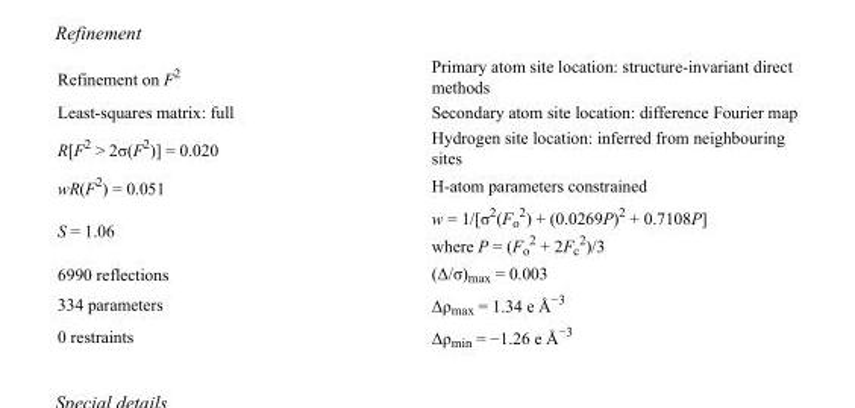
<table><tbody><tr><td>Refinement on F<sup>2</sup></td><td>Primary atom site location: structure-invariant direct methods</td></tr><tr><td>Least-squares matrix: full</td><td>Secondary atom site location: difference Fourier map</td></tr><tr><td>R[F<sup>2</sup> &gt; 2σ(F<sup>2</sup>)] = 0.020</td><td>Hydrogen site location: inferred from neighbouring sites</td></tr><tr><td>wR(F<sup>2</sup>) = 0.051</td><td>H-atom parameters constrained</td></tr><tr><td>S = 1.06</td><td>w = 1/[σ<sup>2</sup>(F<sub>o</sub> <sup>2</sup>) + (0.0269P)<sup>2</sup> + 0.7108P] where P = (F<sub>o</sub> <sup>2</sup> + 2F<sub>c</sub> <sup>2</sup>)/3</td></tr><tr><td>6990 reflections</td><td>(Δ/σ)<sub>max</sub> = 0.003</td></tr><tr><td>334 parameters</td><td>Δρ<sub>max</sub> = 1.34 e Å<sup>−3</sup></td></tr><tr><td>0 restraints</td><td>Δρ<sub>min</sub> = −1.26 e Å<sup>−3</sup></td></tr></tbody></table>